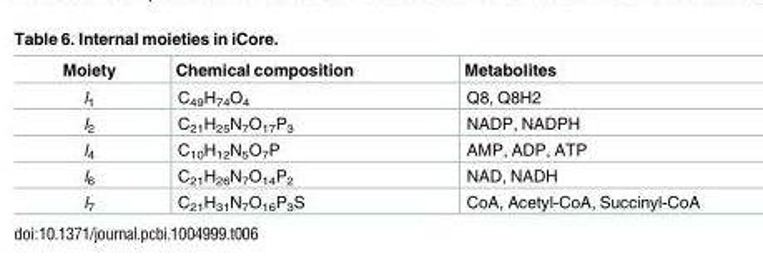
<table><thead><tr><td>Moiety</td><td>Chemical composition</td><td>Metabolites</td></tr></thead><tbody><tr><td>l<sub>1</sub></td><td>C<sub>49</sub>H<sub>74</sub>O<sub>4</sub></td><td>Q8, Q8H2</td></tr><tr><td>l<sub>2</sub></td><td>C<sub>21</sub>H<sub>25</sub>N<sub>7</sub>O<sub>17</sub>P<sub>3</sub></td><td>NADP, NADPH</td></tr><tr><td>l<sub>4</sub></td><td>C<sub>10</sub>H<sub>12</sub>N<sub>5</sub>O<sub>7</sub>P</td><td>AMP, ADP, ATP</td></tr><tr><td>l<sub>6</sub></td><td>C<sub>21</sub>H<sub>26</sub>N<sub>7</sub>O<sub>14</sub>P<sub>2</sub></td><td>NAD, NADH</td></tr><tr><td>l<sub>7</sub></td><td>C<sub>21</sub>H<sub>31</sub>N<sub>7</sub>O<sub>16</sub>P<sub>3</sub>S</td><td>CoA, Acetyl-CoA, Succinyl-CoA</td></tr></tbody></table>